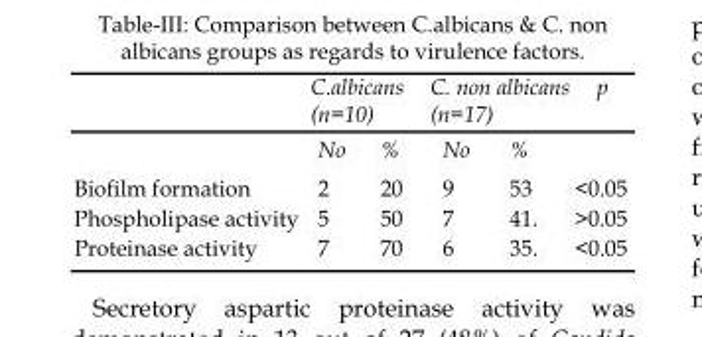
<table><thead><tr><td rowspan="2"></td><td colspan="2">C.albicans (n=10)</td><td colspan="2">C. non albicans (n=17)</td><td rowspan="2">p</td></tr><tr><td>No</td><td>%</td><td>No</td><td>%</td></tr></thead><tbody><tr><td>Biofilm formation</td><td>2</td><td>20</td><td>9</td><td>53</td><td>&lt;0.05</td></tr><tr><td>Phospholipase activity</td><td>5</td><td>50</td><td>7</td><td>41.</td><td>&gt;0.05</td></tr><tr><td>Proteinase activity</td><td>7</td><td>70</td><td>6</td><td>35.</td><td>&lt;0.05</td></tr></tbody></table>